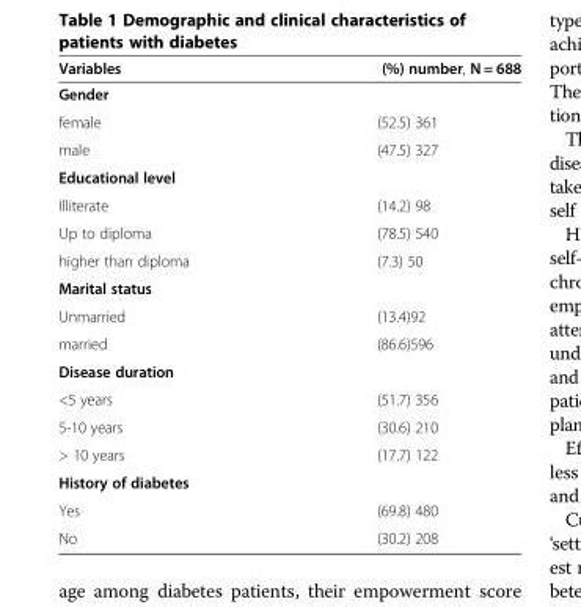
<table><thead><tr><td>Variables</td><td>(%) number, N = 688</td></tr></thead><tbody><tr><td colspan="2">Gender</td></tr><tr><td>female</td><td>(52.5) 361</td></tr><tr><td>male</td><td>(47.5) 327</td></tr><tr><td colspan="2">Educational level</td></tr><tr><td>Illiterate</td><td>(14.2) 98</td></tr><tr><td>Up to diploma</td><td>(78.5) 540</td></tr><tr><td>higher than diploma</td><td>(7.3) 50</td></tr><tr><td colspan="2">Marital status</td></tr><tr><td>Unmarried</td><td>(13.4)92</td></tr><tr><td>married</td><td>(86.6)596</td></tr><tr><td colspan="2">Disease duration</td></tr><tr><td>&lt;5 years</td><td>(51.7) 356</td></tr><tr><td>5-10 years</td><td>(30.6) 210</td></tr><tr><td>&gt; 10 years</td><td>(17.7) 122</td></tr><tr><td colspan="2">History of diabetes</td></tr><tr><td>Yes</td><td>(69.8) 480</td></tr><tr><td>No</td><td>(30.2) 208</td></tr></tbody></table>